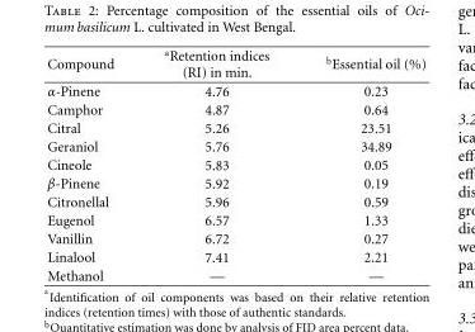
<table><thead><tr><td>Compound</td><td><sup>a</sup>Retention indices (RI) in min.</td><td><sup>b</sup>Essential oil (%)</td></tr></thead><tbody><tr><td>α-Pinene</td><td>4.76</td><td>0.23</td></tr><tr><td>Camphor</td><td>4.87</td><td>0.64</td></tr><tr><td>Citral</td><td>5.26</td><td>23.51</td></tr><tr><td>Geraniol</td><td>5.76</td><td>34.89</td></tr><tr><td>Cineole</td><td>5.83</td><td>0.05</td></tr><tr><td>β-Pinene</td><td>5.92</td><td>0.19</td></tr><tr><td>Citronellal</td><td>5.96</td><td>0.59</td></tr><tr><td>Eugenol</td><td>6.57</td><td>1.33</td></tr><tr><td>Vanillin</td><td>6.72</td><td>0.27</td></tr><tr><td>Linalool</td><td>7.41</td><td>2.21</td></tr><tr><td>Methanol</td><td>—</td><td>—</td></tr></tbody></table>